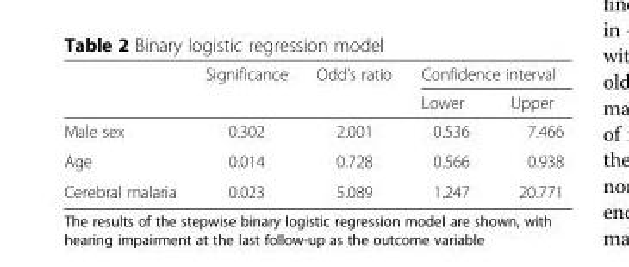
<table><thead><tr><td rowspan="2"></td><td rowspan="2">Significance</td><td rowspan="2">Odd’s ratio</td><td colspan="2">Confidence interval</td></tr><tr><td>Lower</td><td>Upper</td></tr></thead><tbody><tr><td>Male sex</td><td>0.302</td><td>2.001</td><td>0.536</td><td>7.466</td></tr><tr><td>Age</td><td>0.014</td><td>0.728</td><td>0.566</td><td>0.938</td></tr><tr><td>Cerebral malaria</td><td>0.023</td><td>5.089</td><td>1.247</td><td>20.771</td></tr></tbody></table>